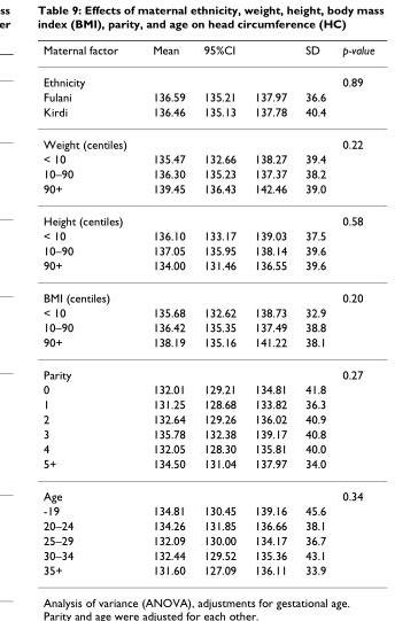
<table><thead><tr><td>Maternal factor</td><td>Mean</td><td>95%CI</td><td></td><td>SD</td><td>p-value</td></tr></thead><tbody><tr><td>Ethnicity</td><td></td><td></td><td></td><td></td><td>0.89</td></tr><tr><td>Fulani</td><td>136.59</td><td>135.21</td><td>137.97</td><td>36.6</td><td></td></tr><tr><td>Kirdi</td><td>136.46</td><td>135.13</td><td>137.78</td><td>40.4</td><td></td></tr><tr><td>Weight (centiles)</td><td></td><td></td><td></td><td></td><td>0.22</td></tr><tr><td>&lt; 10</td><td>135.47</td><td>132.66</td><td>138.27</td><td>39.4</td><td></td></tr><tr><td>10–90</td><td>136.30</td><td>135.23</td><td>137.37</td><td>38.2</td><td></td></tr><tr><td>90+</td><td>139.45</td><td>136.43</td><td>142.46</td><td>39.0</td><td></td></tr><tr><td>Height (centiles)</td><td></td><td></td><td></td><td></td><td>0.58</td></tr><tr><td>&lt; 10</td><td>136.10</td><td>133.17</td><td>139.03</td><td>37.5</td><td></td></tr><tr><td>10–90</td><td>137.05</td><td>135.95</td><td>138.14</td><td>39.6</td><td></td></tr><tr><td>90+</td><td>134.00</td><td>131.46</td><td>136.55</td><td>39.6</td><td></td></tr><tr><td>BMI (centiles)</td><td></td><td></td><td></td><td></td><td>0.20</td></tr><tr><td>&lt; 10</td><td>135.68</td><td>132.62</td><td>138.73</td><td>32.9</td><td></td></tr><tr><td>10–90</td><td>136.42</td><td>135.35</td><td>137.49</td><td>38.8</td><td></td></tr><tr><td>90+</td><td>138.19</td><td>135.16</td><td>141.22</td><td>38.1</td><td></td></tr><tr><td>Parity</td><td></td><td></td><td></td><td></td><td>0.27</td></tr><tr><td>0</td><td>132.01</td><td>129.21</td><td>134.81</td><td>41.8</td><td></td></tr><tr><td>1</td><td>131.25</td><td>128.68</td><td>133.82</td><td>36.3</td><td></td></tr><tr><td>2</td><td>132.64</td><td>129.26</td><td>136.02</td><td>40.9</td><td></td></tr><tr><td>3</td><td>135.78</td><td>132.38</td><td>139.17</td><td>40.8</td><td></td></tr><tr><td>4</td><td>132.05</td><td>128.30</td><td>135.81</td><td>40.0</td><td></td></tr><tr><td>5+</td><td>134.50</td><td>131.04</td><td>137.97</td><td>34.0</td><td></td></tr><tr><td>Age</td><td></td><td></td><td></td><td></td><td>0.34</td></tr><tr><td>-19</td><td>134.81</td><td>130.45</td><td>139.16</td><td>45.6</td><td></td></tr><tr><td>20–24</td><td>134.26</td><td>131.85</td><td>136.66</td><td>38.1</td><td></td></tr><tr><td>25–29</td><td>132.09</td><td>130.00</td><td>134.17</td><td>36.7</td><td></td></tr><tr><td>30–34</td><td>132.44</td><td>129.52</td><td>135.36</td><td>43.1</td><td></td></tr><tr><td>35+</td><td>131.60</td><td>127.09</td><td>136.11</td><td>33.9</td><td></td></tr></tbody></table>